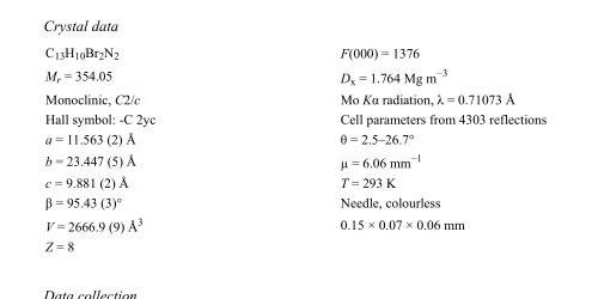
<table><tbody><tr><td>C<sub>13</sub>H<sub>10</sub>Br<sub>2</sub>N<sub>2</sub></td><td>F(000) = 1376</td></tr><tr><td>M<sub>r</sub> = 354.05</td><td>D<sub>x</sub> = 1.764 Mg m<sup>−3</sup></td></tr><tr><td>Monoclinic, C2/c</td><td>Mo Kα radiation, λ = 0.71073 Å</td></tr><tr><td>Hall symbol: -C 2yc</td><td>Cell parameters from 4303 reflections</td></tr><tr><td>a = 11.563 (2) Å</td><td>θ = 2.5–26.7°</td></tr><tr><td>b = 23.447 (5) Å</td><td>µ = 6.06 mm<sup>−1</sup></td></tr><tr><td>c = 9.881 (2) Å</td><td>T = 293 K</td></tr><tr><td>β = 95.43 (3)°</td><td>Needle, colourless</td></tr><tr><td>V = 2666.9 (9) Å<sup>3</sup></td><td>0.15 × 0.07 × 0.06 mm</td></tr><tr><td>Z = 8</td><td></td></tr></tbody></table>